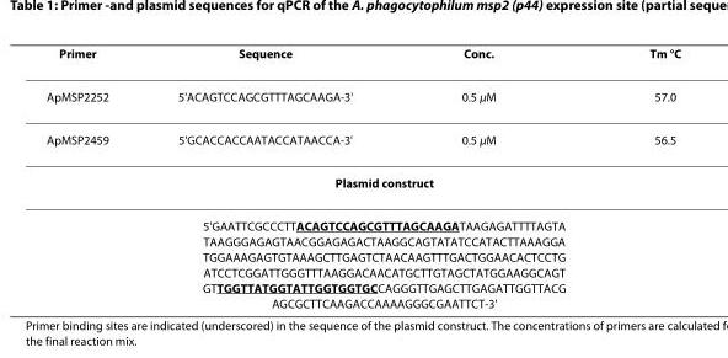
<table><thead><tr><td>Primer</td><td>Sequence</td><td>Conc.</td><td>Tm °C</td></tr></thead><tbody><tr><td>ApMSP2252</td><td>5&#x27;ACAGTCCAGCGTTTAGCAAGA-3&#x27;</td><td>0.5 μM</td><td>57.0</td></tr><tr><td>ApMSP2459</td><td>5&#x27;GCACCACCAATACCATAACCA-3&#x27;</td><td>0.5 μM</td><td>56.5</td></tr><tr><td colspan="4">Plasmid construct</td></tr><tr><td colspan="4">5&#x27;GAATTCGCCCTTACAGTCCAGCGTTTAGCAAGATAAGAGATTTTAGTA TAAGGGAGAGTAACGGAGAGACTAAGGCAGTATATCCATACTTAAAGGA TGGAAAGAGTGTAAAGCTTGAGTCTAACAAGTTTGACTGGAACACTCCTG ATCCTCGGATTGGGTTTAAGGACAACATGCTTGTAGCTATGGAAGGCAGT GTTGGTTATGGTATTGGTGGTGCCAGGGTTGAGCTTGAGATTGGTTACG AGCGCTTCAAGACCAAAAGGGCGAATTCT-3&#x27;</td></tr></tbody></table>